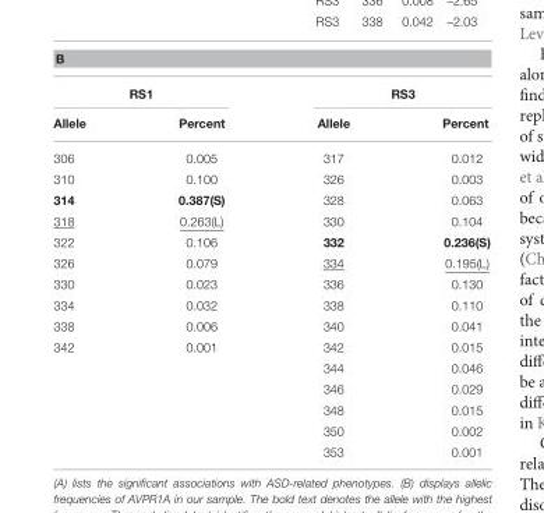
<table><thead><tr><td colspan="4">B</td></tr><tr><td colspan="2">RS1</td><td colspan="2">RS3</td></tr><tr><td>Allele</td><td>Percent</td><td>Allele</td><td>Percent</td></tr></thead><tbody><tr><td>306</td><td>0.005</td><td>317</td><td>0.012</td></tr><tr><td>310</td><td>0.100</td><td>326</td><td>0.003</td></tr><tr><td>314</td><td>0.387(S)</td><td>328</td><td>0.063</td></tr><tr><td>318</td><td>0.263(L)</td><td>330</td><td>0.104</td></tr><tr><td>322</td><td>0.106</td><td>332</td><td>0.236(S)</td></tr><tr><td>326</td><td>0.079</td><td>334</td><td>0.195(L)</td></tr><tr><td>330</td><td>0.023</td><td>336</td><td>0.130</td></tr><tr><td>334</td><td>0.032</td><td>338</td><td>0.110</td></tr><tr><td>338</td><td>0.006</td><td>340</td><td>0.041</td></tr><tr><td rowspan="6">342</td><td>0.001</td><td>342</td><td>0.015</td></tr><tr><td></td><td>344</td><td>0.046</td></tr><tr><td></td><td>346</td><td>0.029</td></tr><tr><td></td><td>348</td><td>0.015</td></tr><tr><td></td><td>350</td><td>0.002</td></tr><tr><td></td><td>353</td><td>0.001</td></tr></tbody></table>